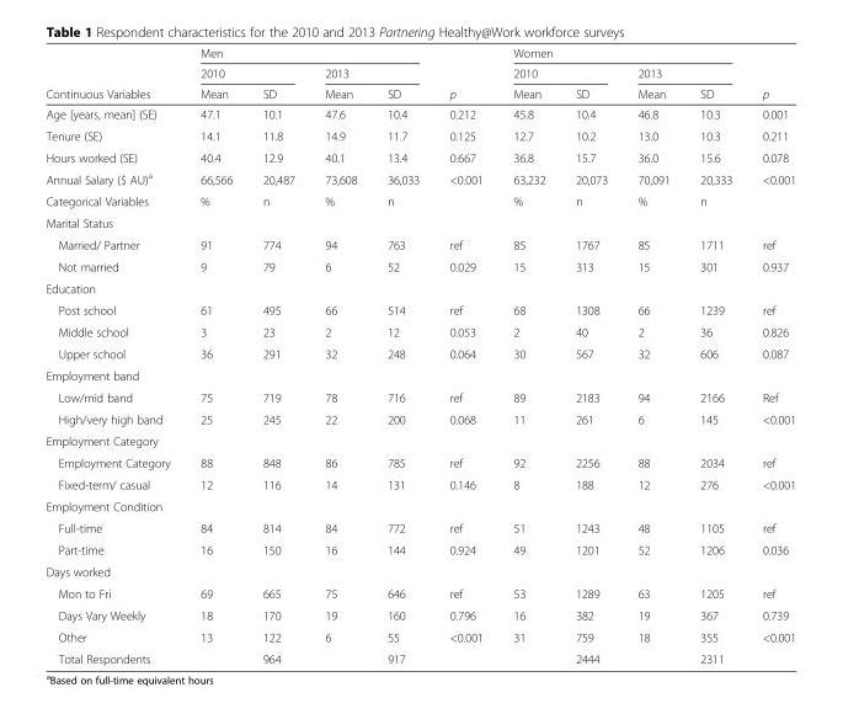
<table><thead><tr><td rowspan="3">Continuous Variables</td><td colspan="4">Men</td><td rowspan="3">p</td><td colspan="4">Women</td><td rowspan="3">p</td></tr><tr><td colspan="2">2010</td><td colspan="2">2013</td><td colspan="2">2010</td><td colspan="2">2013</td></tr><tr><td>Mean</td><td>SD</td><td>Mean</td><td>SD</td><td>Mean</td><td>SD</td><td>Mean</td><td>SD</td></tr></thead><tbody><tr><td>Age [years, mean] (SE)</td><td>47.1</td><td>10.1</td><td>47.6</td><td>10.4</td><td>0.212</td><td>45.8</td><td>10.4</td><td>46.8</td><td>10.3</td><td>0.001</td></tr><tr><td>Tenure (SE)</td><td>14.1</td><td>11.8</td><td>14.9</td><td>11.7</td><td>0.125</td><td>12.7</td><td>10.2</td><td>13.0</td><td>10.3</td><td>0.211</td></tr><tr><td>Hours worked (SE)</td><td>40.4</td><td>12.9</td><td>40.1</td><td>13.4</td><td>0.667</td><td>36.8</td><td>15.7</td><td>36.0</td><td>15.6</td><td>0.078</td></tr><tr><td>Annual Salary ($ AU)<sup>a</sup></td><td>66,566</td><td>20,487</td><td>73,608</td><td>36,033</td><td>&lt;0.001</td><td>63,232</td><td>20,073</td><td>70,091</td><td>20,333</td><td>&lt;0.001</td></tr><tr><td>Categorical Variables</td><td>%</td><td>n</td><td>%</td><td>n</td><td></td><td>%</td><td>n</td><td>%</td><td>n</td><td></td></tr><tr><td colspan="11">Marital Status</td></tr><tr><td>Married/ Partner</td><td>91</td><td>774</td><td>94</td><td>763</td><td>ref</td><td>85</td><td>1767</td><td>85</td><td>1711</td><td>ref</td></tr><tr><td>Not married</td><td>9</td><td>79</td><td>6</td><td>52</td><td>0.029</td><td>15</td><td>313</td><td>15</td><td>301</td><td>0.937</td></tr><tr><td colspan="11">Education</td></tr><tr><td>Post school</td><td>61</td><td>495</td><td>66</td><td>514</td><td>ref</td><td>68</td><td>1308</td><td>66</td><td>1239</td><td>ref</td></tr><tr><td>Middle school</td><td>3</td><td>23</td><td>2</td><td>12</td><td>0.053</td><td>2</td><td>40</td><td>2</td><td>36</td><td>0.826</td></tr><tr><td>Upper school</td><td>36</td><td>291</td><td>32</td><td>248</td><td>0.064</td><td>30</td><td>567</td><td>32</td><td>606</td><td>0.087</td></tr><tr><td colspan="11">Employment band</td></tr><tr><td>Low/mid band</td><td>75</td><td>719</td><td>78</td><td>716</td><td>ref</td><td>89</td><td>2183</td><td>94</td><td>2166</td><td>Ref</td></tr><tr><td>High/very high band</td><td>25</td><td>245</td><td>22</td><td>200</td><td>0.068</td><td>11</td><td>261</td><td>6</td><td>145</td><td>&lt;0.001</td></tr><tr><td colspan="11">Employment Category</td></tr><tr><td>Employment Category</td><td>88</td><td>848</td><td>86</td><td>785</td><td>ref</td><td>92</td><td>2256</td><td>88</td><td>2034</td><td>ref</td></tr><tr><td>Fixed-term/ casual</td><td>12</td><td>116</td><td>14</td><td>131</td><td>0.146</td><td>8</td><td>188</td><td>12</td><td>276</td><td>&lt;0.001</td></tr><tr><td colspan="11">Employment Condition</td></tr><tr><td>Full-time</td><td>84</td><td>814</td><td>84</td><td>772</td><td>ref</td><td>51</td><td>1243</td><td>48</td><td>1105</td><td>ref</td></tr><tr><td>Part-time</td><td>16</td><td>150</td><td>16</td><td>144</td><td>0.924</td><td>49</td><td>1201</td><td>52</td><td>1206</td><td>0.036</td></tr><tr><td colspan="11">Days worked</td></tr><tr><td>Mon to Fri</td><td>69</td><td>665</td><td>75</td><td>646</td><td>ref</td><td>53</td><td>1289</td><td>63</td><td>1205</td><td>ref</td></tr><tr><td>Days Vary Weekly</td><td>18</td><td>170</td><td>19</td><td>160</td><td>0.796</td><td>16</td><td>382</td><td>19</td><td>367</td><td>0.739</td></tr><tr><td>Other</td><td>13</td><td>122</td><td>6</td><td>55</td><td>&lt;0.001</td><td>31</td><td>759</td><td>18</td><td>355</td><td>&lt;0.001</td></tr><tr><td>Total Respondents</td><td></td><td>964</td><td></td><td>917</td><td></td><td></td><td>2444</td><td></td><td>2311</td><td></td></tr></tbody></table>